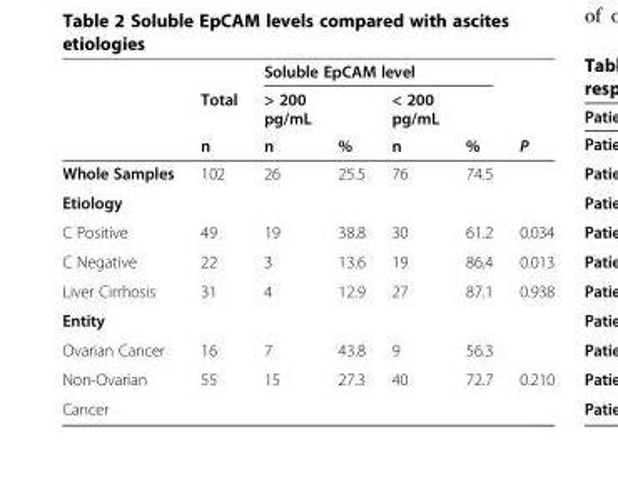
<table><thead><tr><td rowspan="3"></td><td rowspan="3">Total n</td><td colspan="4">Soluble EpCAM level</td><td rowspan="3">P</td></tr><tr><td rowspan="2">&gt; 200 pg/mL n</td><td rowspan="2">%</td><td rowspan="2">&lt; 200 pg/mL n</td><td rowspan="2">%</td></tr><tr></tr></thead><tbody><tr><td>Whole Samples</td><td>102</td><td>26</td><td>25.5</td><td>76</td><td>74.5</td><td></td></tr><tr><td colspan="7">Etiology</td></tr><tr><td>C Positive</td><td>49</td><td>19</td><td>38.8</td><td>30</td><td>61.2</td><td>0.034</td></tr><tr><td>C Negative</td><td>22</td><td>3</td><td>13.6</td><td>19</td><td>86.4</td><td>0.013</td></tr><tr><td>Liver Cirrhosis</td><td>31</td><td>4</td><td>12.9</td><td>27</td><td>87.1</td><td>0.938</td></tr><tr><td colspan="7">Entity</td></tr><tr><td>Ovarian Cancer</td><td>16</td><td>7</td><td>43.8</td><td>9</td><td>56.3</td><td></td></tr><tr><td>Non-Ovarian</td><td>55</td><td>15</td><td>27.3</td><td>40</td><td>72.7</td><td>0.210</td></tr><tr><td>Cancer</td><td></td><td></td><td></td><td></td><td></td><td></td></tr></tbody></table>